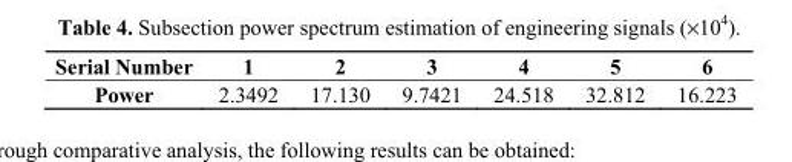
<table><thead><tr><td>Serial Number</td><td>1</td><td>2</td><td>3</td><td>4</td><td>5</td><td>6</td></tr></thead><tbody><tr><td>Power</td><td>2.3492</td><td>17.130</td><td>9.7421</td><td>24.518</td><td>32.812</td><td>16.223</td></tr></tbody></table>